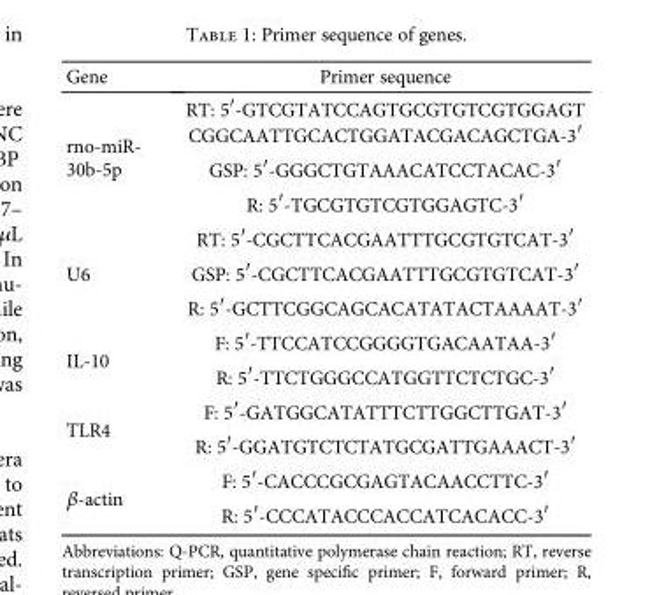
<table><thead><tr><td>Gene</td><td>Primer sequence</td></tr></thead><tbody><tr><td rowspan="3">rno-miR- 30b-5p</td><td>RT: 5′-GTCGTATCCAGTGCGTGTCGTGGAGT CGGCAATTGCACTGGATACGACAGCTGA-3′</td></tr><tr><td>GSP: 5′-GGGCTGTAAACATCCTACAC-3′</td></tr><tr><td>R: 5′-TGCGTGTCGTGGAGTC-3′</td></tr><tr><td rowspan="3">U6</td><td>RT: 5′-CGCTTCACGAATTTGCGTGTCAT-3′</td></tr><tr><td>GSP: 5′-CGCTTCACGAATTTGCGTGTCAT-3′</td></tr><tr><td>R: 5′-GCTTCGGCAGCACATATACTAAAAT-3′</td></tr><tr><td rowspan="2">IL-10</td><td>F: 5′-TTCCATCCGGGGTGACAATAA-3′</td></tr><tr><td>R: 5′-TTCTGGGCCATGGTTCTCTGC-3′</td></tr><tr><td rowspan="2">TLR4</td><td>F: 5′-GATGGCATATTTCTTGGCTTGAT-3′</td></tr><tr><td>R: 5′-GGATGTCTCTATGCGATTGAAACT-3′</td></tr><tr><td rowspan="2">β-actin</td><td>F: 5′-CACCCGCGAGTACAACCTTC-3′</td></tr><tr><td>R: 5′-CCCATACCCACCATCACACC-3′</td></tr></tbody></table>